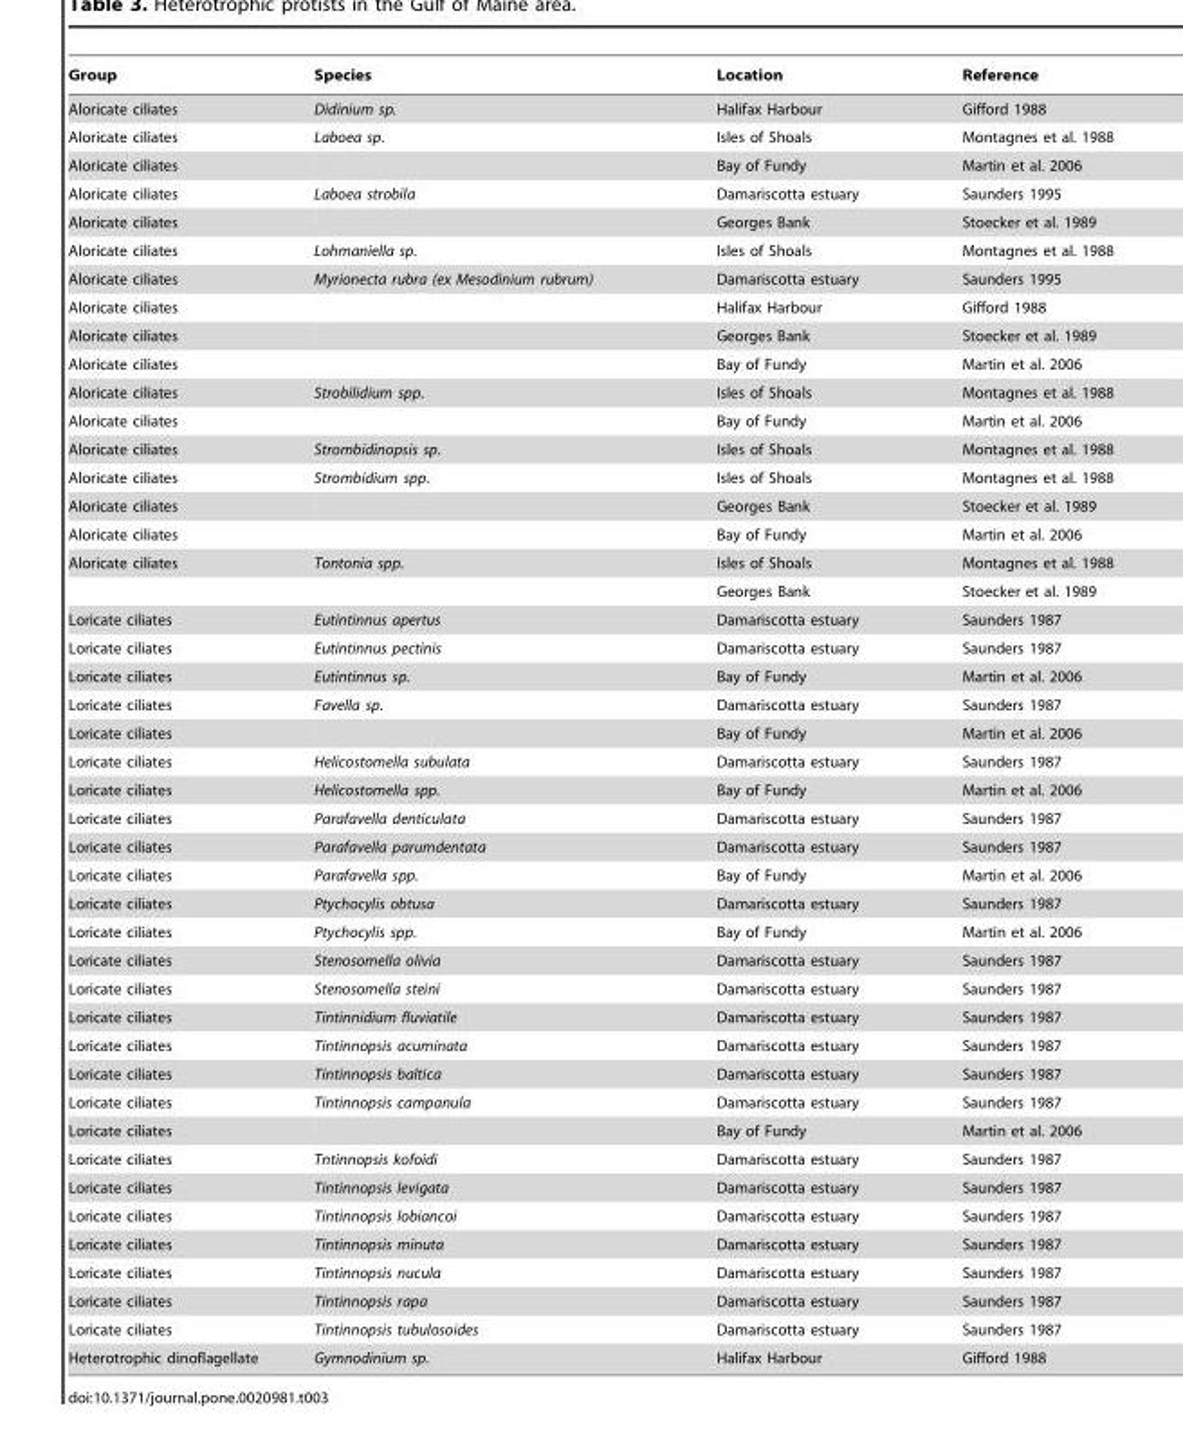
<table><thead><tr><td>Group</td><td>Species</td><td>Location</td><td>Reference</td></tr></thead><tbody><tr><td>Aloricate ciliates</td><td>Didinium sp.</td><td>Halifax Harbour</td><td>Gifford 1988</td></tr><tr><td>Aloricate ciliates</td><td>Laboea sp.</td><td>Isles of Shoals</td><td>Montagnes et al. 1988</td></tr><tr><td>Aloricate ciliates</td><td></td><td>Bay of Fundy</td><td>Martin et al. 2006</td></tr><tr><td>Aloricate ciliates</td><td>Laboea strobila</td><td>Damariscotta estuary</td><td>Saunders 1995</td></tr><tr><td>Aloricate ciliates</td><td></td><td>Georges Bank</td><td>Stoecker et al. 1989</td></tr><tr><td>Aloricate ciliates</td><td>Lohmaniella sp.</td><td>Isles of Shoals</td><td>Montagnes et al. 1988</td></tr><tr><td>Aloricate ciliates</td><td>Myrionecta rubra (ex Mesodinium rubrum)</td><td>Damariscotta estuary</td><td>Saunders 1995</td></tr><tr><td>Aloricate ciliates</td><td></td><td>Halifax Harbour</td><td>Gifford 1988</td></tr><tr><td>Aloricate ciliates</td><td></td><td>Georges Bank</td><td>Stoecker et al. 1989</td></tr><tr><td>Aloricate ciliates</td><td></td><td>Bay of Fundy</td><td>Martin et al. 2006</td></tr><tr><td>Aloricate ciliates</td><td>Strobilidium spp.</td><td>Isles of Shoals</td><td>Montagnes et al. 1988</td></tr><tr><td>Aloricate ciliates</td><td></td><td>Bay of Fundy</td><td>Martin et al. 2006</td></tr><tr><td>Aloricate ciliates</td><td>Strombidinopsis sp.</td><td>Isles of Shoals</td><td>Montagnes et al. 1988</td></tr><tr><td>Aloricate ciliates</td><td>Strombidium spp.</td><td>Isles of Shoals</td><td>Montagnes et al. 1988</td></tr><tr><td>Aloricate ciliates</td><td></td><td>Georges Bank</td><td>Stoecker et al. 1989</td></tr><tr><td>Aloricate ciliates</td><td></td><td>Bay of Fundy</td><td>Martin et al. 2006</td></tr><tr><td rowspan="2">Aloricate ciliates</td><td>Tontonia spp.</td><td>Isles of Shoals</td><td>Montagnes et al. 1988</td></tr><tr><td></td><td>Georges Bank</td><td>Stoecker et al. 1989</td></tr><tr><td>Loricate ciliates</td><td>Eutintinnus apertus</td><td>Damariscotta estuary</td><td>Saunders 1987</td></tr><tr><td>Loricate ciliates</td><td>Eutintinnus pectinis</td><td>Damariscotta estuary</td><td>Saunders 1987</td></tr><tr><td>Loricate ciliates</td><td>Eutintinnus sp.</td><td>Bay of Fundy</td><td>Martin et al. 2006</td></tr><tr><td>Loricate ciliates</td><td>Favella sp.</td><td>Damariscotta estuary</td><td>Saunders 1987</td></tr><tr><td>Loricate ciliates</td><td></td><td>Bay of Fundy</td><td>Martin et al. 2006</td></tr><tr><td>Loricate ciliates</td><td>Helicostomella subulata</td><td>Damariscotta estuary</td><td>Saunders 1987</td></tr><tr><td>Loricate ciliates</td><td>Helicostomella spp.</td><td>Bay of Fundy</td><td>Martin et al. 2006</td></tr><tr><td>Loricate ciliates</td><td>Parafavella denticulata</td><td>Damariscotta estuary</td><td>Saunders 1987</td></tr><tr><td>Loricate ciliates</td><td>Parafavella parumdentata</td><td>Damariscotta estuary</td><td>Saunders 1987</td></tr><tr><td>Loricate ciliates</td><td>Parafavella spp.</td><td>Bay of Fundy</td><td>Martin et al. 2006</td></tr><tr><td>Loricate ciliates</td><td>Ptychocylis obtusa</td><td>Damariscotta estuary</td><td>Saunders 1987</td></tr><tr><td>Loricate ciliates</td><td>Ptychocylis spp.</td><td>Bay of Fundy</td><td>Martin et al. 2006</td></tr><tr><td>Loricate ciliates</td><td>Stenosomella olivia</td><td>Damariscotta estuary</td><td>Saunders 1987</td></tr><tr><td>Loricate ciliates</td><td>Stenosomella steini</td><td>Damariscotta estuary</td><td>Saunders 1987</td></tr><tr><td>Loricate ciliates</td><td>Tintinnidium fluviatile</td><td>Damariscotta estuary</td><td>Saunders 1987</td></tr><tr><td>Loricate ciliates</td><td>Tintinnopsis acuminata</td><td>Damariscotta estuary</td><td>Saunders 1987</td></tr><tr><td>Loricate ciliates</td><td>Tintinnopsis baltica</td><td>Damariscotta estuary</td><td>Saunders 1987</td></tr><tr><td>Loricate ciliates</td><td>Tintinnopsis campanula</td><td>Damariscotta estuary</td><td>Saunders 1987</td></tr><tr><td>Loricate ciliates</td><td></td><td>Bay of Fundy</td><td>Martin et al. 2006</td></tr><tr><td>Loricate ciliates</td><td>Tntinnopsis kofoidi</td><td>Damariscotta estuary</td><td>Saunders 1987</td></tr><tr><td>Loricate ciliates</td><td>Tintinnopsis levigata</td><td>Damariscotta estuary</td><td>Saunders 1987</td></tr><tr><td>Loricate ciliates</td><td>Tintinnopsis lobiancoi</td><td>Damariscotta estuary</td><td>Saunders 1987</td></tr><tr><td>Loricate ciliates</td><td>Tintinnopsis minuta</td><td>Damariscotta estuary</td><td>Saunders 1987</td></tr><tr><td>Loricate ciliates</td><td>Tintinnopsis nucula</td><td>Damariscotta estuary</td><td>Saunders 1987</td></tr><tr><td>Loricate ciliates</td><td>Tintinnopsis rapa</td><td>Damariscotta estuary</td><td>Saunders 1987</td></tr><tr><td>Loricate ciliates</td><td>Tintinnopsis tubulosoides</td><td>Damariscotta estuary</td><td>Saunders 1987</td></tr><tr><td>Heterotrophic dinoflagellate</td><td>Gymnodinium sp.</td><td>Halifax Harbour</td><td>Gifford 1988</td></tr></tbody></table>